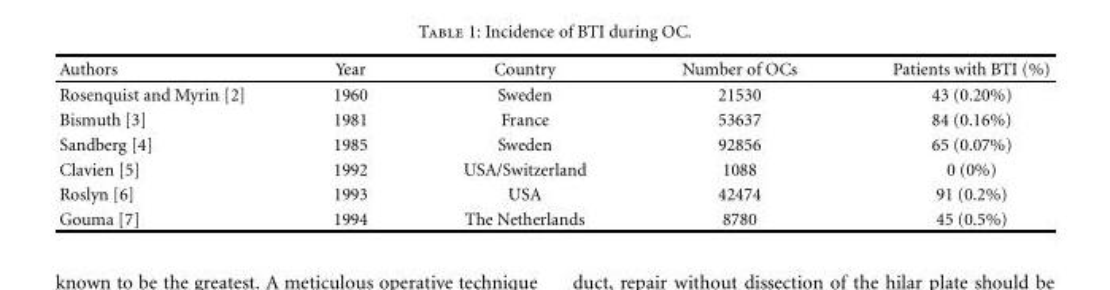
<table><thead><tr><td>Authors</td><td>Year</td><td>Country</td><td>Number of OCs</td><td>Patients with BTI (%)</td></tr></thead><tbody><tr><td>Rosenquist and Myrin [2]</td><td>1960</td><td>Sweden</td><td>21530</td><td>43 (0.20%)</td></tr><tr><td>Bismuth [3]</td><td>1981</td><td>France</td><td>53637</td><td>84 (0.16%)</td></tr><tr><td>Sandberg [4]</td><td>1985</td><td>Sweden</td><td>92856</td><td>65 (0.07%)</td></tr><tr><td>Clavien [5]</td><td>1992</td><td>USA/Switzerland</td><td>1088</td><td>0 (0%)</td></tr><tr><td>Roslyn [6]</td><td>1993</td><td>USA</td><td>42474</td><td>91 (0.2%)</td></tr><tr><td>Gouma [7]</td><td>1994</td><td>The Netherlands</td><td>8780</td><td>45 (0.5%)</td></tr></tbody></table>